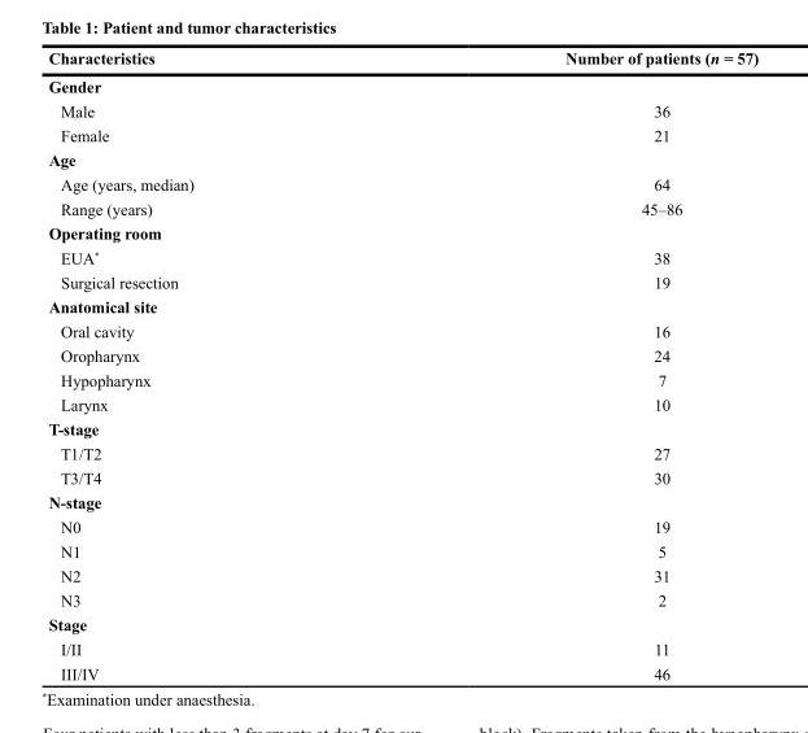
<table><thead><tr><td>Characteristics</td><td>Number of patients (n = 57)</td></tr></thead><tbody><tr><td colspan="2">Gender</td></tr><tr><td>Male</td><td>36</td></tr><tr><td>Female</td><td>21</td></tr><tr><td colspan="2">Age</td></tr><tr><td>Age (years, median)</td><td>64</td></tr><tr><td>Range (years)</td><td>45–86</td></tr><tr><td colspan="2">Operating room</td></tr><tr><td>EUA*</td><td>38</td></tr><tr><td>Surgical resection</td><td>19</td></tr><tr><td colspan="2">Anatomical site</td></tr><tr><td>Oral cavity</td><td>16</td></tr><tr><td>Oropharynx</td><td>24</td></tr><tr><td>Hypopharynx</td><td>7</td></tr><tr><td>Larynx</td><td>10</td></tr><tr><td colspan="2">T-stage</td></tr><tr><td>T1/T2</td><td>27</td></tr><tr><td>T3/T4</td><td>30</td></tr><tr><td colspan="2">N-stage</td></tr><tr><td>N0</td><td>19</td></tr><tr><td>N1</td><td>5</td></tr><tr><td>N2</td><td>31</td></tr><tr><td>N3</td><td>2</td></tr><tr><td colspan="2">Stage</td></tr><tr><td>I/II</td><td>11</td></tr><tr><td>III/IV</td><td>46</td></tr></tbody></table>